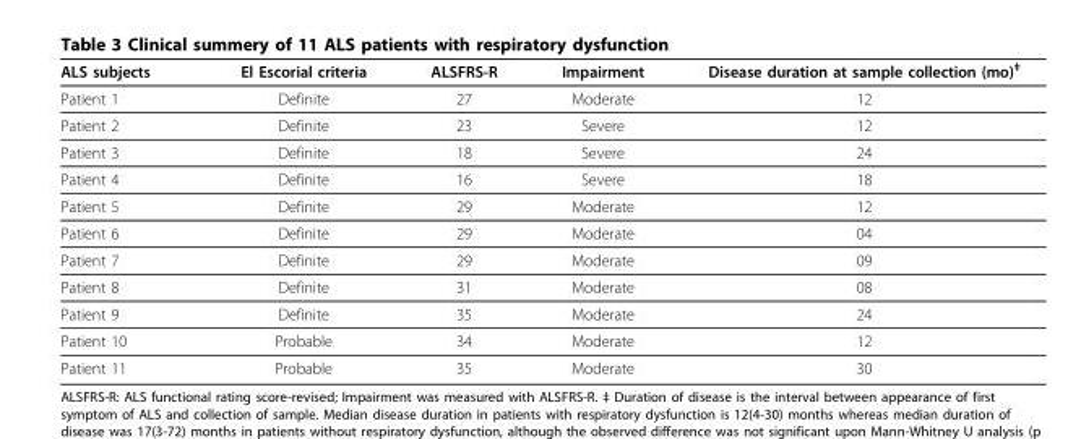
<table><thead><tr><td>ALS subjects</td><td>El Escorial criteria</td><td>ALSFRS-R</td><td>Impairment</td><td>Disease duration at sample collection (mo)<sup>‡</sup></td></tr></thead><tbody><tr><td>Patient 1</td><td>Definite</td><td>27</td><td>Moderate</td><td>12</td></tr><tr><td>Patient 2</td><td>Definite</td><td>23</td><td>Severe</td><td>12</td></tr><tr><td>Patient 3</td><td>Definite</td><td>18</td><td>Severe</td><td>24</td></tr><tr><td>Patient 4</td><td>Definite</td><td>16</td><td>Severe</td><td>18</td></tr><tr><td>Patient 5</td><td>Definite</td><td>29</td><td>Moderate</td><td>12</td></tr><tr><td>Patient 6</td><td>Definite</td><td>29</td><td>Moderate</td><td>04</td></tr><tr><td>Patient 7</td><td>Definite</td><td>29</td><td>Moderate</td><td>09</td></tr><tr><td>Patient 8</td><td>Definite</td><td>31</td><td>Moderate</td><td>08</td></tr><tr><td>Patient 9</td><td>Definite</td><td>35</td><td>Moderate</td><td>24</td></tr><tr><td>Patient 10</td><td>Probable</td><td>34</td><td>Moderate</td><td>12</td></tr><tr><td>Patient 11</td><td>Probable</td><td>35</td><td>Moderate</td><td>30</td></tr></tbody></table>